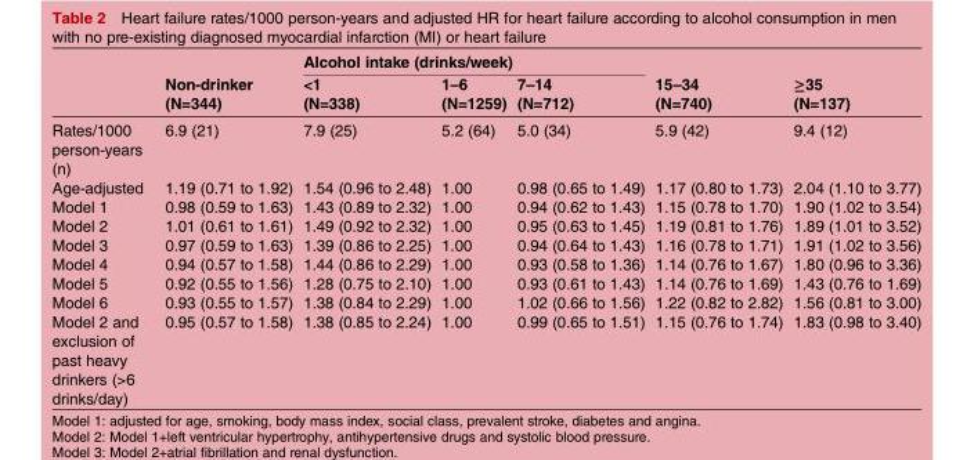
<table><thead><tr><td rowspan="2"></td><td rowspan="2">Non-drinker (N=344)</td><td colspan="3">Alcohol intake (drinks/week)</td><td rowspan="2">15–34 (N=740)</td><td rowspan="2">≥35 (N=137)</td></tr><tr><td>&lt;1 (N=338)</td><td>1–6 (N=1259)</td><td>7–14 (N=712)</td></tr></thead><tbody><tr><td>Rates/1000 person-years (n)</td><td>6.9 (21)</td><td>7.9 (25)</td><td>5.2 (64)</td><td>5.0 (34)</td><td>5.9 (42)</td><td>9.4 (12)</td></tr><tr><td>Age-adjusted</td><td>1.19 (0.71 to 1.92)</td><td>1.54 (0.96 to 2.48)</td><td>1.00</td><td>0.98 (0.65 to 1.49)</td><td>1.17 (0.80 to 1.73)</td><td>2.04 (1.10 to 3.77)</td></tr><tr><td>Model 1</td><td>0.98 (0.59 to 1.63)</td><td>1.43 (0.89 to 2.32)</td><td>1.00</td><td>0.94 (0.62 to 1.43)</td><td>1.15 (0.78 to 1.70)</td><td>1.90 (1.02 to 3.54)</td></tr><tr><td>Model 2</td><td>1.01 (0.61 to 1.61)</td><td>1.49 (0.92 to 2.32)</td><td>1.00</td><td>0.95 (0.63 to 1.45)</td><td>1.19 (0.81 to 1.76)</td><td>1.89 (1.01 to 3.52)</td></tr><tr><td>Model 3</td><td>0.97 (0.59 to 1.63)</td><td>1.39 (0.86 to 2.25)</td><td>1.00</td><td>0.94 (0.64 to 1.43)</td><td>1.16 (0.78 to 1.71)</td><td>1.91 (1.02 to 3.56)</td></tr><tr><td>Model 4</td><td>0.94 (0.57 to 1.58)</td><td>1.44 (0.86 to 2.29)</td><td>1.00</td><td>0.93 (0.58 to 1.36)</td><td>1.14 (0.76 to 1.67)</td><td>1.80 (0.96 to 3.36)</td></tr><tr><td>Model 5</td><td>0.92 (0.55 to 1.56)</td><td>1.28 (0.75 to 2.10)</td><td>1.00</td><td>0.93 (0.61 to 1.43)</td><td>1.14 (0.76 to 1.69)</td><td>1.43 (0.76 to 1.69)</td></tr><tr><td>Model 6</td><td>0.93 (0.55 to 1.57)</td><td>1.38 (0.84 to 2.29)</td><td>1.00</td><td>1.02 (0.66 to 1.56)</td><td>1.22 (0.82 to 2.82)</td><td>1.56 (0.81 to 3.00)</td></tr><tr><td>Model 2 and exclusion of past heavy drinkers (&gt;6 drinks/day)</td><td>0.95 (0.57 to 1.58)</td><td>1.38 (0.85 to 2.24)</td><td>1.00</td><td>0.99 (0.65 to 1.51)</td><td>1.15 (0.76 to 1.74)</td><td>1.83 (0.98 to 3.40)</td></tr></tbody></table>